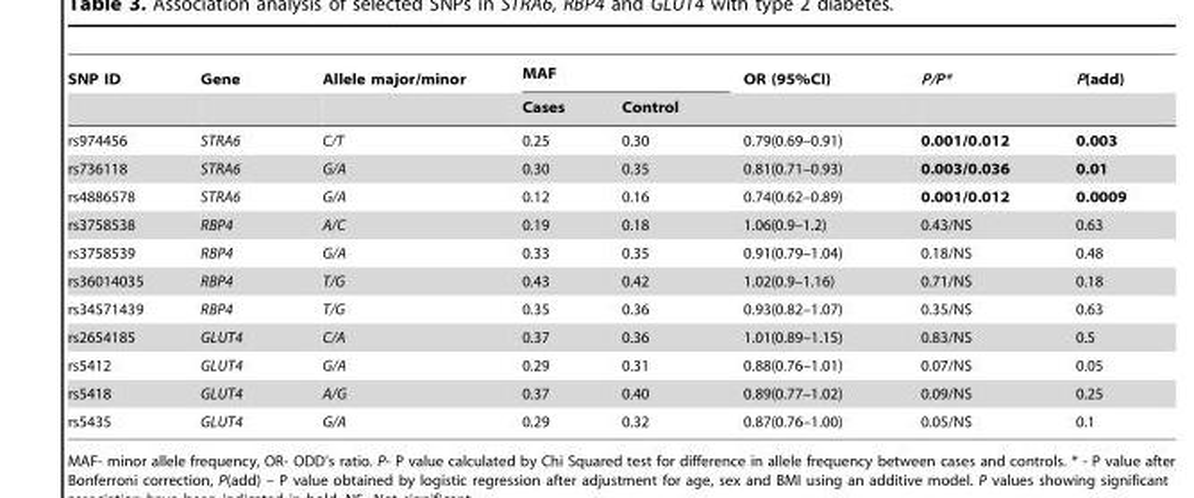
<table><thead><tr><td rowspan="2">SNP ID</td><td rowspan="2">Gene</td><td rowspan="2">Allele major/minor</td><td colspan="2">MAF</td><td rowspan="2">OR (95%CI)</td><td rowspan="2">P/P*</td><td rowspan="2">P(add)</td></tr><tr><td>Cases</td><td>Control</td></tr></thead><tbody><tr><td>rs974456</td><td>STRA6</td><td>C/T</td><td>0.25</td><td>0.30</td><td>0.79(0.69–0.91)</td><td>0.001/0.012</td><td>0.003</td></tr><tr><td>rs736118</td><td>STRA6</td><td>G/A</td><td>0.30</td><td>0.35</td><td>0.81(0.71–0.93)</td><td>0.003/0.036</td><td>0.01</td></tr><tr><td>rs4886578</td><td>STRA6</td><td>G/A</td><td>0.12</td><td>0.16</td><td>0.74(0.62–0.89)</td><td>0.001/0.012</td><td>0.0009</td></tr><tr><td>rs3758538</td><td>RBP4</td><td>A/C</td><td>0.19</td><td>0.18</td><td>1.06(0.9–1.2)</td><td>0.43/NS</td><td>0.63</td></tr><tr><td>rs3758539</td><td>RBP4</td><td>G/A</td><td>0.33</td><td>0.35</td><td>0.91(0.79–1.04)</td><td>0.18/NS</td><td>0.48</td></tr><tr><td>rs36014035</td><td>RBP4</td><td>T/G</td><td>0.43</td><td>0.42</td><td>1.02(0.9–1.16)</td><td>0.71/NS</td><td>0.18</td></tr><tr><td>rs34571439</td><td>RBP4</td><td>T/G</td><td>0.35</td><td>0.36</td><td>0.93(0.82–1.07)</td><td>0.35/NS</td><td>0.63</td></tr><tr><td>rs2654185</td><td>GLUT4</td><td>C/A</td><td>0.37</td><td>0.36</td><td>1.01(0.89–1.15)</td><td>0.83/NS</td><td>0.5</td></tr><tr><td>rs5412</td><td>GLUT4</td><td>G/A</td><td>0.29</td><td>0.31</td><td>0.88(0.76–1.01)</td><td>0.07/NS</td><td>0.05</td></tr><tr><td>rs5418</td><td>GLUT4</td><td>A/G</td><td>0.37</td><td>0.40</td><td>0.89(0.77–1.02)</td><td>0.09/NS</td><td>0.25</td></tr><tr><td>rs5435</td><td>GLUT4</td><td>G/A</td><td>0.29</td><td>0.32</td><td>0.87(0.76–1.00)</td><td>0.05/NS</td><td>0.1</td></tr></tbody></table>